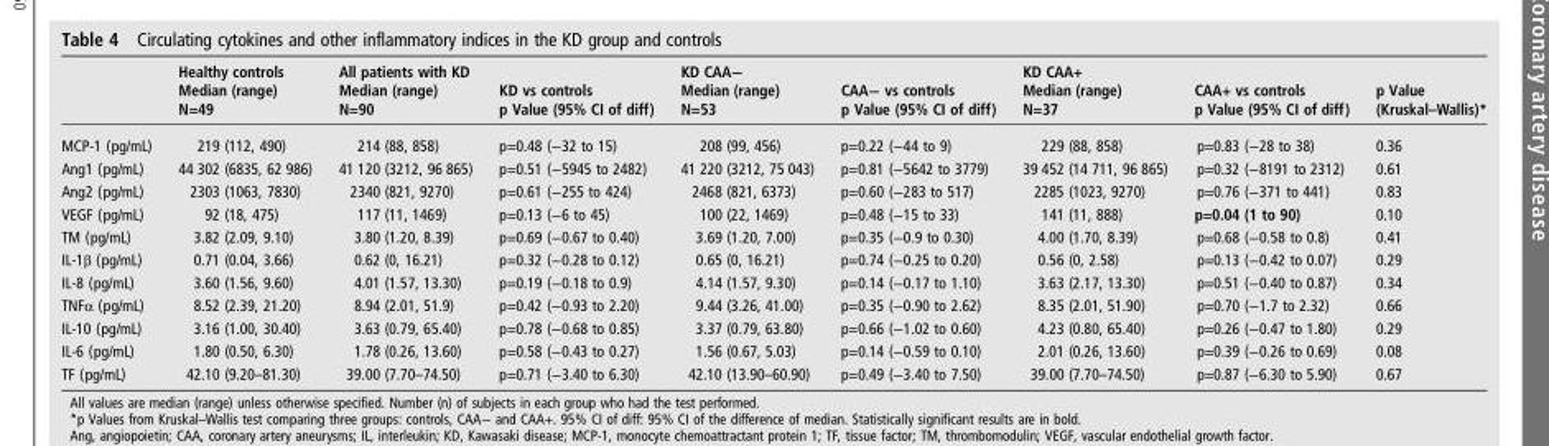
<table><thead><tr><td></td><td>Healthy controls Median (range) N=49</td><td>All patients with KD Median (range) N=90</td><td>KD vs controls p Value (95% CI of diff)</td><td>KD CAA− Median (range) N=53</td><td>CAA− vs controls p Value (95% CI of diff)</td><td>KD CAA+ Median (range) N=37</td><td>CAA+ vs controls p Value (95% CI of diff)</td><td>p Value (Kruskal–Wallis)*</td></tr></thead><tbody><tr><td>MCP-1 (pg/mL)</td><td>219 (112, 490)</td><td>214 (88, 858)</td><td>p=0.48 (−32 to 15)</td><td>208 (99, 456)</td><td>p=0.22 (−44 to 9)</td><td>229 (88, 858)</td><td>p=0.83 (−28 to 38)</td><td>0.36</td></tr><tr><td>Ang1 (pg/mL)</td><td>44 302 (6835, 62 986)</td><td>41 120 (3212, 96 865)</td><td>p=0.51 (−5945 to 2482)</td><td>41 220 (3212, 75 043)</td><td>p=0.81 (−5642 to 3779)</td><td>39 452 (14 711, 96 865)</td><td>p=0.32 (−8191 to 2312)</td><td>0.61</td></tr><tr><td>Ang2 (pg/mL)</td><td>2303 (1063, 7830)</td><td>2340 (821, 9270)</td><td>p=0.61 (−255 to 424)</td><td>2468 (821, 6373)</td><td>p=0.60 (−283 to 517)</td><td>2285 (1023, 9270)</td><td>p=0.76 (−371 to 441)</td><td>0.83</td></tr><tr><td>VEGF (pg/mL)</td><td>92 (18, 475)</td><td>117 (11, 1469)</td><td>p=0.13 (−6 to 45)</td><td>100 (22, 1469)</td><td>p=0.48 (−15 to 33)</td><td>141 (11, 888)</td><td>p=0.04 (1 to 90)</td><td>0.10</td></tr><tr><td>TM (pg/mL)</td><td>3.82 (2.09, 9.10)</td><td>3.80 (1.20, 8.39)</td><td>p=0.69 (−0.67 to 0.40)</td><td>3.69 (1.20, 7.00)</td><td>p=0.35 (−0.9 to 0.30)</td><td>4.00 (1.70, 8.39)</td><td>p=0.68 (−0.58 to 0.8)</td><td>0.41</td></tr><tr><td>IL-1β (pg/mL)</td><td>0.71 (0.04, 3.66)</td><td>0.62 (0, 16.21)</td><td>p=0.32 (−0.28 to 0.12)</td><td>0.65 (0, 16.21)</td><td>p=0.74 (−0.25 to 0.20)</td><td>0.56 (0, 2.58)</td><td>p=0.13 (−0.42 to 0.07)</td><td>0.29</td></tr><tr><td>IL-8 (pg/mL)</td><td>3.60 (1.56, 9.60)</td><td>4.01 (1.57, 13.30)</td><td>p=0.19 (−0.18 to 0.9)</td><td>4.14 (1.57, 9.30)</td><td>p=0.14 (−0.17 to 1.10)</td><td>3.63 (2.17, 13.30)</td><td>p=0.51 (−0.40 to 0.87)</td><td>0.34</td></tr><tr><td>TNFα (pg/mL)</td><td>8.52 (2.39, 21.20)</td><td>8.94 (2.01, 51.9)</td><td>p=0.42 (−0.93 to 2.20)</td><td>9.44 (3.26, 41.00)</td><td>p=0.35 (−0.90 to 2.62)</td><td>8.35 (2.01, 51.90)</td><td>p=0.70 (−1.7 to 2.32)</td><td>0.66</td></tr><tr><td>IL-10 (pg/mL)</td><td>3.16 (1.00, 30.40)</td><td>3.63 (0.79, 65.40)</td><td>p=0.78 (−0.68 to 0.85)</td><td>3.37 (0.79, 63.80)</td><td>p=0.66 (−1.02 to 0.60)</td><td>4.23 (0.80, 65.40)</td><td>p=0.26 (−0.47 to 1.80)</td><td>0.29</td></tr><tr><td>IL-6 (pg/mL)</td><td>1.80 (0.50, 6.30)</td><td>1.78 (0.26, 13.60)</td><td>p=0.58 (−0.43 to 0.27)</td><td>1.56 (0.67, 5.03)</td><td>p=0.14 (−0.59 to 0.10)</td><td>2.01 (0.26, 13.60)</td><td>p=0.39 (−0.26 to 0.69)</td><td>0.08</td></tr><tr><td>TF (pg/mL)</td><td>42.10 (9.20–81.30)</td><td>39.00 (7.70–74.50)</td><td>p=0.71 (−3.40 to 6.30)</td><td>42.10 (13.90–60.90)</td><td>p=0.49 (−3.40 to 7.50)</td><td>39.00 (7.70–74.50)</td><td>p=0.87 (−6.30 to 5.90)</td><td>0.67</td></tr></tbody></table>